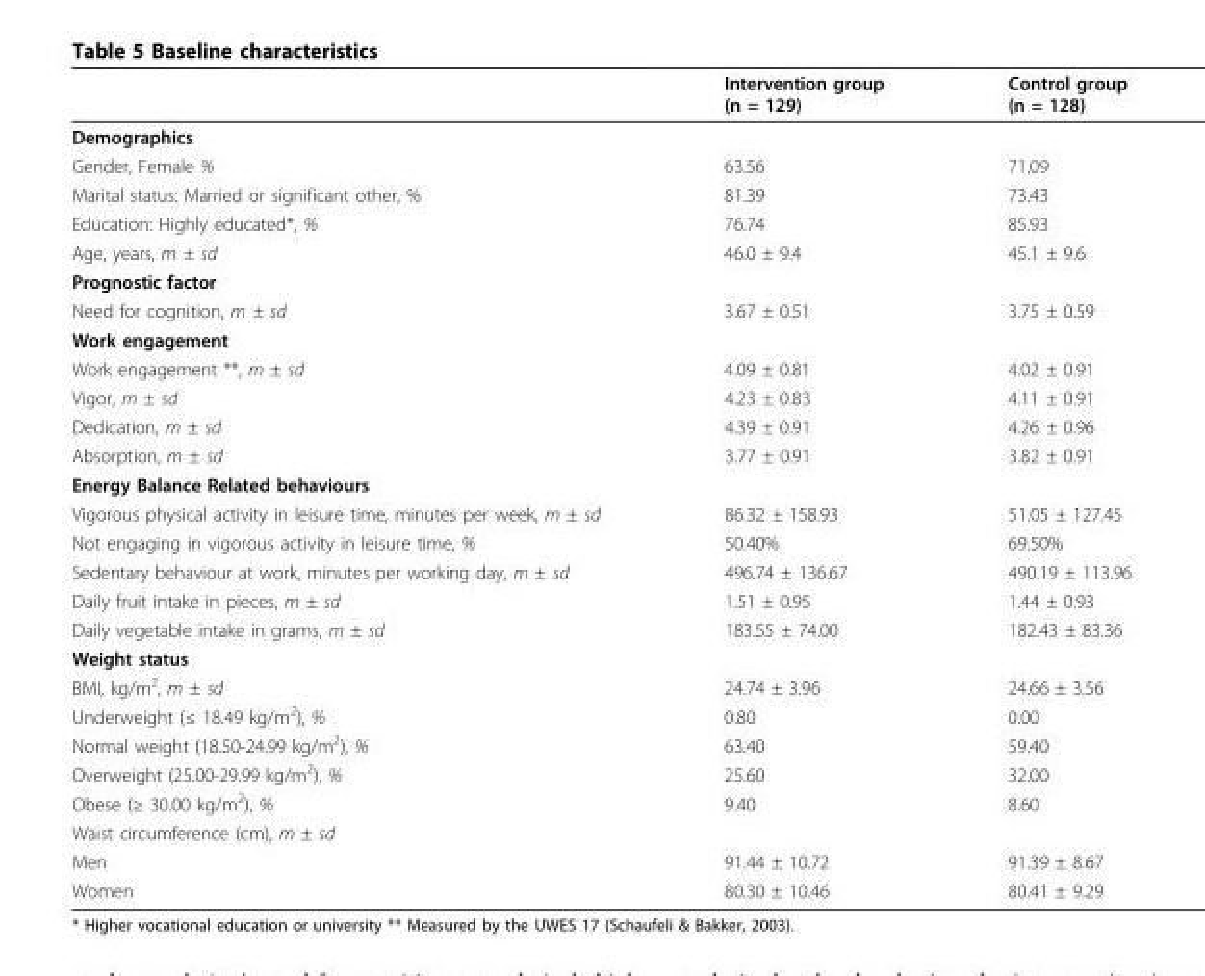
<table><thead><tr><td></td><td>Intervention group (n = 129)</td><td>Control group (n = 128)</td></tr></thead><tbody><tr><td colspan="3">Demographics</td></tr><tr><td>Gender, Female %</td><td>63.56</td><td>71.09</td></tr><tr><td>Marital status: Married or significant other, %</td><td>81.39</td><td>73.43</td></tr><tr><td>Education: Highly educated*, %</td><td>76.74</td><td>85.93</td></tr><tr><td>Age, years, m ± sd</td><td>46.0 ± 9.4</td><td>45.1 ± 9.6</td></tr><tr><td colspan="3">Prognostic factor</td></tr><tr><td>Need for cognition, m ± sd</td><td>3.67 ± 0.51</td><td>3.75 ± 0.59</td></tr><tr><td colspan="3">Work engagement</td></tr><tr><td>Work engagement **, m ± sd</td><td>4.09 ± 0.81</td><td>4.02 ± 0.91</td></tr><tr><td>Vigor, m ± sd</td><td>4.23 ± 0.83</td><td>4.11 ± 0.91</td></tr><tr><td>Dedication, m ± sd</td><td>4.39 ± 0.91</td><td>4.26 ± 0.96</td></tr><tr><td>Absorption, m ± sd</td><td>3.77 ± 0.91</td><td>3.82 ± 0.91</td></tr><tr><td colspan="3">Energy Balance Related behaviours</td></tr><tr><td>Vigorous physical activity in leisure time, minutes per week, m ± sd</td><td>86.32 ± 158.93</td><td>51.05 ± 127.45</td></tr><tr><td>Not engaging in vigorous activity in leisure time, %</td><td>50.40%</td><td>69.50%</td></tr><tr><td>Sedentary behaviour at work, minutes per working day, m ± sd</td><td>496.74 ± 136.67</td><td>490.19 ± 113.96</td></tr><tr><td>Daily fruit intake in pieces, m ± sd</td><td>1.51 ± 0.95</td><td>1.44 ± 0.93</td></tr><tr><td>Daily vegetable intake in grams, m ± sd</td><td>183.55 ± 74.00</td><td>182.43 ± 83.36</td></tr><tr><td colspan="3">Weight status</td></tr><tr><td>BMI, kg/m<sup>2</sup>, m ± sd</td><td>24.74 ± 3.96</td><td>24.66 ± 3.56</td></tr><tr><td>Underweight (≤ 18.49 kg/m<sup>2</sup>), %</td><td>0.80</td><td>0.00</td></tr><tr><td>Normal weight (18.50-24.99 kg/m<sup>2</sup>), %</td><td>63.40</td><td>59.40</td></tr><tr><td>Overweight (25.00-29.99 kg/m<sup>2</sup>), %</td><td>25.60</td><td>32.00</td></tr><tr><td>Obese (≥ 30.00 kg/m<sup>2</sup>), %</td><td>9.40</td><td>8.60</td></tr><tr><td colspan="3">Waist circumference (cm), m ± sd</td></tr><tr><td>Men</td><td>91.44 ± 10.72</td><td>91.39 ± 8.67</td></tr><tr><td>Women</td><td>80.30 ± 10.46</td><td>80.41 ± 9.29</td></tr></tbody></table>